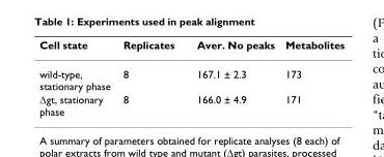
<table><thead><tr><td>Cell state</td><td>Replicates</td><td>Aver. No peaks</td><td>Metabolites</td></tr></thead><tbody><tr><td>wild-type, stationary phase</td><td>8</td><td>167.1 ± 2.3</td><td>173</td></tr><tr><td>Δgt, stationary phase</td><td>8</td><td>166.0 ± 4.9</td><td>171</td></tr></tbody></table>